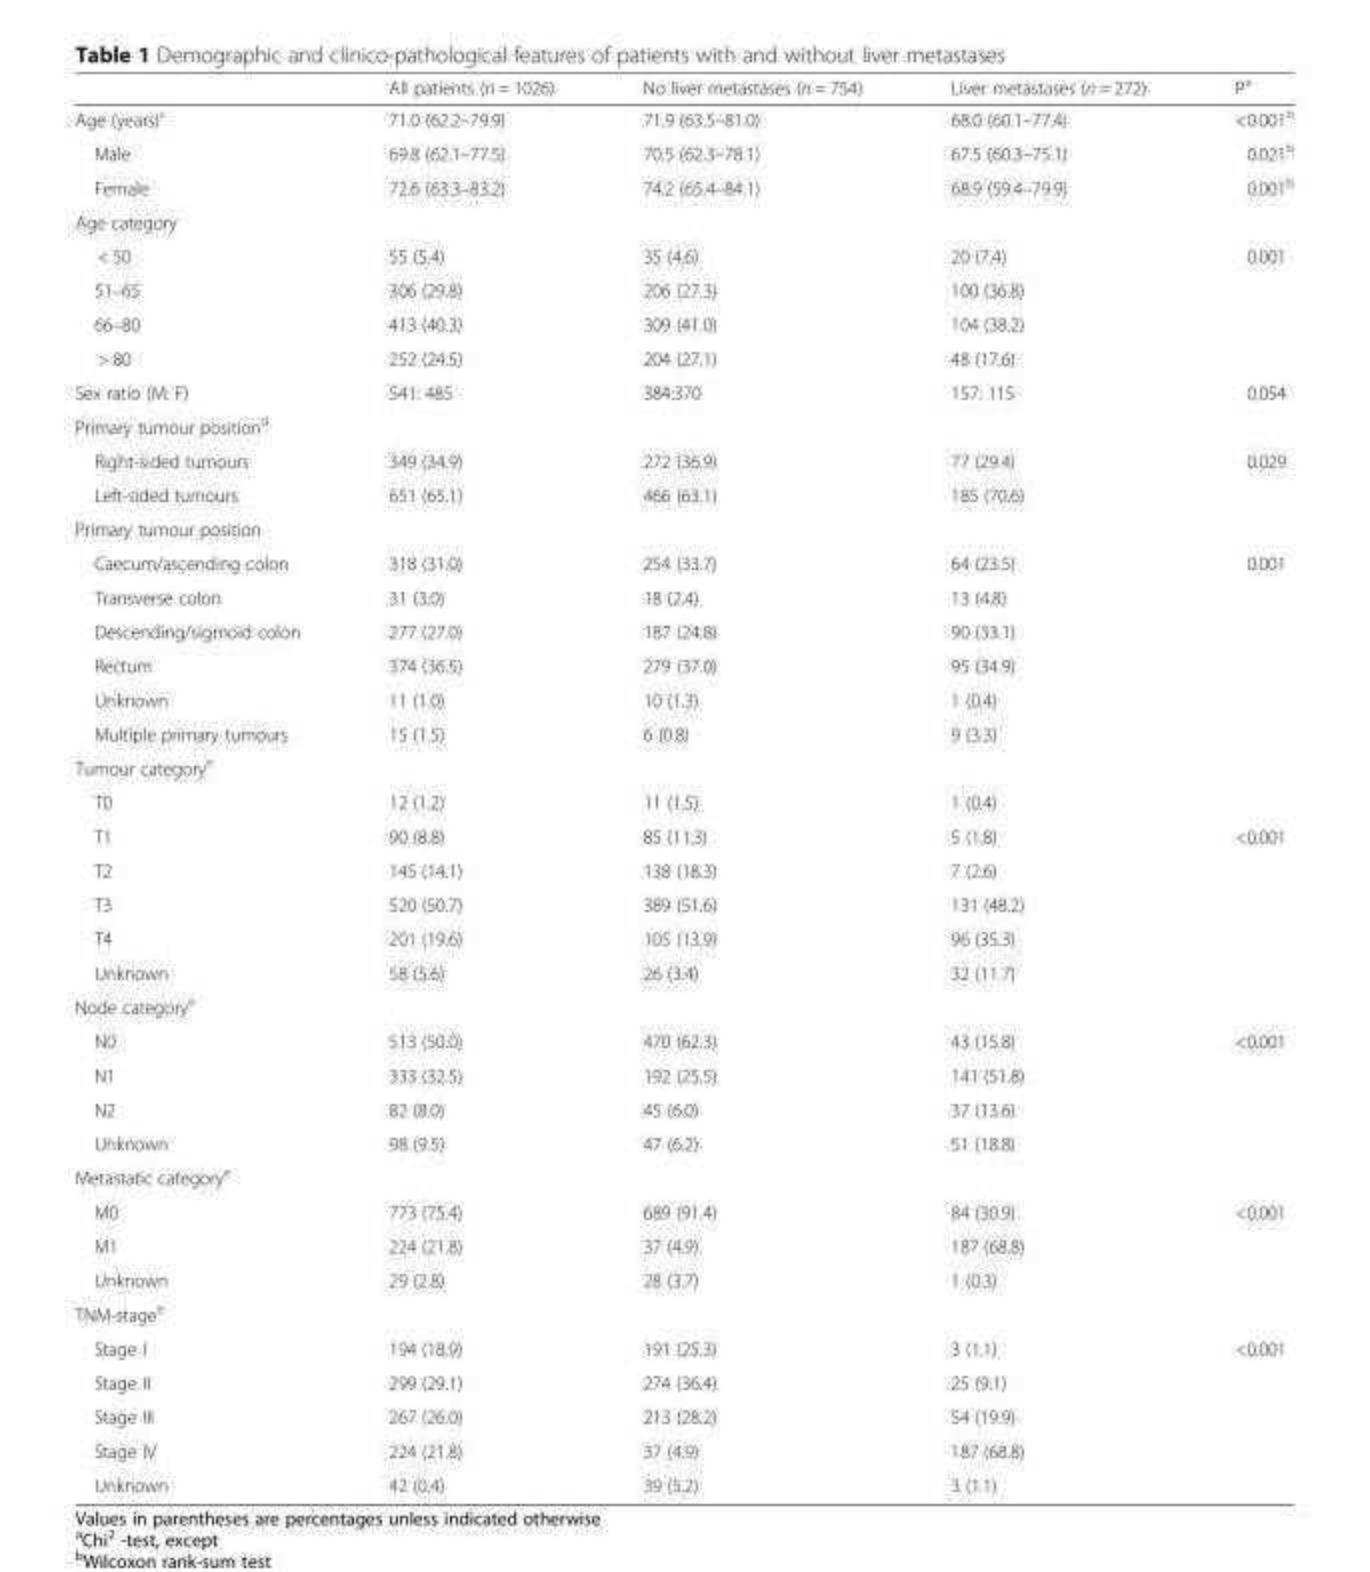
<table><thead><tr><td></td><td>All patients (n = 1026)</td><td>No liver metastases (n = 754)</td><td>Liver metastases (n = 272)</td><td>P<sup>a</sup></td></tr></thead><tbody><tr><td>Age (years)<sup>c</sup></td><td>71.0 (62.2–79.9)</td><td>71.9 (63.5–81.0)</td><td>68.0 (60.1–77.4)</td><td>&lt;0.001<sup>b</sup></td></tr><tr><td>Male</td><td>69.8 (62.1–77.5)</td><td>70.5 (62.3–78.1)</td><td>67.5 (60.3–75.1)</td><td>0.021<sup>b</sup></td></tr><tr><td>Female</td><td>72.6 (63.3–83.2)</td><td>74.2 (65.4–84.1)</td><td>68.9 (59.4–79.9)</td><td>0.001<sup>b</sup></td></tr><tr><td colspan="5">Age category</td></tr><tr><td>&lt; 50</td><td>55 (5.4)</td><td>35 (4.6)</td><td>20 (7.4)</td><td rowspan="4">0.001</td></tr><tr><td>51–65</td><td>306 (29.8)</td><td>206 (27.3)</td><td>100 (36.8)</td></tr><tr><td>66–80</td><td>413 (40.3)</td><td>309 (41.0)</td><td>104 (38.2)</td></tr><tr><td>&gt; 80</td><td>252 (24.5)</td><td>204 (27.1)</td><td>48 (17.6)</td></tr><tr><td>Sex ratio (M: F)</td><td>541: 485</td><td>384:370</td><td>157: 115</td><td>0.054</td></tr><tr><td colspan="5">Primary tumour position<sup>d</sup></td></tr><tr><td>Right-sided tumours</td><td>349 (34.9)</td><td>272 (36.9)</td><td>77 (29.4)</td><td rowspan="2">0.029</td></tr><tr><td>Left-sided tumours</td><td>651 (65.1)</td><td>466 (63.1)</td><td>185 (70.6)</td></tr><tr><td colspan="5">Primary tumour position</td></tr><tr><td>Caecum/ascending colon</td><td>318 (31.0)</td><td>254 (33.7)</td><td>64 (23.5)</td><td rowspan="4">0.001</td></tr><tr><td>Transverse colon</td><td>31 (3.0)</td><td>18 (2.4)</td><td>13 (4.8)</td></tr><tr><td>Descending/sigmoid colon</td><td>277 (27.0)</td><td>187 (24.8)</td><td>90 (33.1)</td></tr><tr><td>Rectum</td><td>374 (36.5)</td><td>279 (37.0)</td><td>95 (34.9)</td></tr><tr><td>Unknown</td><td>11 (1.0)</td><td>10 (1.3)</td><td>1 (0.4)</td><td></td></tr><tr><td>Multiple primary tumours</td><td>15 (1.5)</td><td>6 (0.8)</td><td>9 (3.3)</td><td></td></tr><tr><td colspan="5">Tumour category<sup>e</sup></td></tr><tr><td>T0</td><td>12 (1.2)</td><td>11 (1.5)</td><td>1 (0.4)</td><td></td></tr><tr><td>T1</td><td>90 (8.8)</td><td>85 (11.3)</td><td>5 (1.8)</td><td rowspan="4">&lt;0.001</td></tr><tr><td>T2</td><td>145 (14.1)</td><td>138 (18.3)</td><td>7 (2.6)</td></tr><tr><td>T3</td><td>520 (50.7)</td><td>389 (51.6)</td><td>131 (48.2)</td></tr><tr><td>T4</td><td>201 (19.6)</td><td>105 (13.9)</td><td>96 (35.3)</td></tr><tr><td>Unknown</td><td>58 (5.6)</td><td>26 (3.4)</td><td>32 (11.7)</td><td></td></tr><tr><td colspan="5">Node category<sup>e</sup></td></tr><tr><td>N0</td><td>513 (50.0)</td><td>470 (62.3)</td><td>43 (15.8)</td><td rowspan="3">&lt;0.001</td></tr><tr><td>N1</td><td>333 (32.5)</td><td>192 (25.5)</td><td>141 (51.8)</td></tr><tr><td>N2</td><td>82 (8.0)</td><td>45 (6.0)</td><td>37 (13.6)</td></tr><tr><td>Unknown</td><td>98 (9.5)</td><td>47 (6.2)</td><td>51 (18.8)</td><td></td></tr><tr><td colspan="5">Metastatic category<sup>e</sup></td></tr><tr><td>M0</td><td>773 (75.4)</td><td>689 (91.4)</td><td>84 (30.9)</td><td rowspan="2">&lt;0.001</td></tr><tr><td>M1</td><td>224 (21.8)</td><td>37 (4.9)</td><td>187 (68.8)</td></tr><tr><td>Unknown</td><td>29 (2.8)</td><td>28 (3.7)</td><td>1 (0.3)</td><td></td></tr><tr><td colspan="5">TNM-stage<sup>e</sup></td></tr><tr><td>Stage I</td><td>194 (18.9)</td><td>191 (25.3)</td><td>3 (1.1)</td><td rowspan="4">&lt;0.001</td></tr><tr><td>Stage II</td><td>299 (29.1)</td><td>274 (36.4)</td><td>25 (9.1)</td></tr><tr><td>Stage III</td><td>267 (26.0)</td><td>213 (28.2)</td><td>54 (19.9)</td></tr><tr><td>Stage IV</td><td>224 (21.8)</td><td>37 (4.9)</td><td>187 (68.8)</td></tr><tr><td>Unknown</td><td>42 (0.4)</td><td>39 (5.2)</td><td>3 (1.1)</td><td></td></tr></tbody></table>